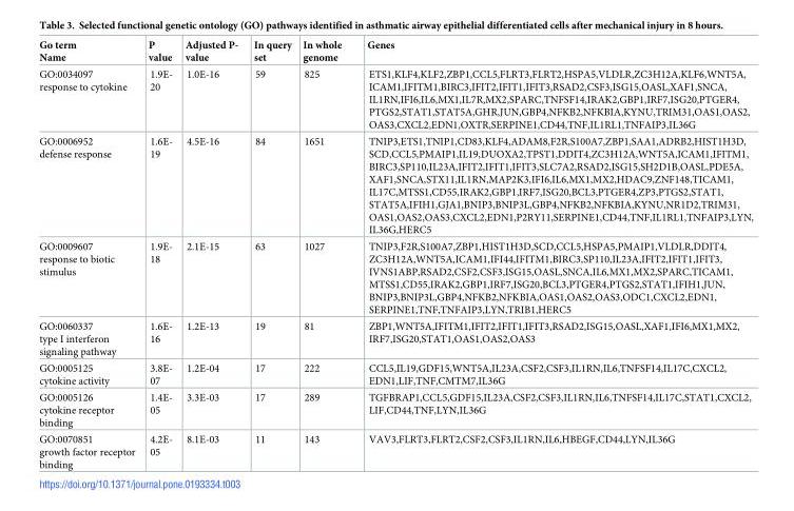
<table><thead><tr><td>Go term Name</td><td>P value</td><td>Adjusted P- value</td><td>In query set</td><td>In whole genome</td><td>Genes</td></tr></thead><tbody><tr><td>GO:0034097 response to cytokine</td><td>1.9E- 20</td><td>1.0E-16</td><td>59</td><td>825</td><td>ETS1,KLF4,KLF2,ZBP1,CCL5,FLRT3,FLRT2,HSPA5,VLDLR,ZC3H12A,KLF6,WNT5A, ICAM1,IFITM1,BIRC3,IFIT2,IFIT1,IFIT3,RSAD2,CSF3,ISG15,OASL,XAF1,SNCA, IL1RN,IFI6,IL6,MX1,IL7R,MX2,SPARC,TNFSF14,IRAK2,GBP1,IRF7,ISG20,PTGER4, PTGS2,STAT1,STAT5A,GHR,JUN,GBP4,NFKB2,NFKBIA,KYNU,TRIM31,OAS1,OAS2, OAS3,CXCL2,EDN1,OXTR,SERPINE1,CD44,TNF,IL1RL1,TNFAIP3,IL36G</td></tr><tr><td>GO:0006952 defense response</td><td>1.6E- 19</td><td>4.5E-16</td><td>84</td><td>1651</td><td>TNIP3,ETS1,TNIP1,CD83,KLF4,ADAM8,F2R,S100A7,ZBP1,SAA1,ADRB2,HIST1H3D, SCD,CCL5,PMAIP1,IL19,DUOXA2,TPST1,DDIT4,ZC3H12A,WNT5A,ICAM1,IFITM1, BIRC3,SP110,IL23A,IFIT2,IFIT1,IFIT3,SLC7A2,RSAD2,ISG15,SH2D1B,OASL,PDE5A, XAF1,SNCA,STX11,IL1RN,MAP2K3,IFI6,IL6,MX1,MX2,HDAC9,ZNF148,TICAM1, IL17C,MTSS1,CD55,IRAK2,GBP1,IRF7,ISG20,BCL3,PTGER4,ZP3,PTGS2,STAT1, STAT5A,IFIH1,GJA1,BNIP3,BNIP3L,GBP4,NFKB2,NFKBIA,KYNU,NR1D2,TRIM31, OAS1,OAS2,OAS3,CXCL2,EDN1,P2RY11,SERPINE1,CD44,TNF,IL1RL1,TNFAIP3,LYN, IL36G,HERC5</td></tr><tr><td>GO:0009607 response to biotic stimulus</td><td>1.9E- 18</td><td>2.1E-15</td><td>63</td><td>1027</td><td>TNIP3,F2R,S100A7,ZBP1,HIST1H3D,SCD,CCL5,HSPA5,PMAIP1,VLDLR,DDIT4, ZC3H12A,WNT5A,ICAM1,IFI44,IFITM1,BIRC3,SP110,IL23A,IFIT2,IFIT1,IFIT3, IVNS1ABP,RSAD2,CSF2,CSF3,ISG15,OASL,SNCA,IL6,MX1,MX2,SPARC,TICAM1, MTSS1,CD55,IRAK2,GBP1,IRF7,ISG20,BCL3,PTGER4,PTGS2,STAT1,IFIH1,JUN, BNIP3,BNIP3L,GBP4,NFKB2,NFKBIA,OAS1,OAS2,OAS3,ODC1,CXCL2,EDN1, SERPINE1,TNF,TNFAIP3,LYN,TRIB1,HERC5</td></tr><tr><td>GO:0060337 type I interferon signaling pathway</td><td>1.6E- 16</td><td>1.2E-13</td><td>19</td><td>81</td><td>ZBP1,WNT5A,IFITM1,IFIT2,IFIT1,IFIT3,RSAD2,ISG15,OASL,XAF1,IFI6,MX1,MX2, IRF7,ISG20,STAT1,OAS1,OAS2,OAS3</td></tr><tr><td>GO:0005125 cytokine activity</td><td>3.8E- 07</td><td>1.2E-04</td><td>17</td><td>222</td><td>CCL5,IL19,GDF15,WNT5A,IL23A,CSF2,CSF3,IL1RN,IL6,TNFSF14,IL17C,CXCL2, EDN1,LIF,TNF,CMTM7,IL36G</td></tr><tr><td>GO:0005126 cytokine receptor binding</td><td>1.4E- 05</td><td>3.3E-03</td><td>17</td><td>289</td><td>TGFBRAP1,CCL5,GDF15,IL23A,CSF2,CSF3,IL1RN,IL6,TNFSF14,IL17C,STAT1,CXCL2, LIF,CD44,TNF,LYN,IL36G</td></tr><tr><td>GO:0070851 growth factor receptor binding</td><td>4.2E- 05</td><td>8.1E-03</td><td>11</td><td>143</td><td>VAV3,FLRT3,FLRT2,CSF2,CSF3,IL1RN,IL6,HBEGF,CD44,LYN,IL36G</td></tr></tbody></table>